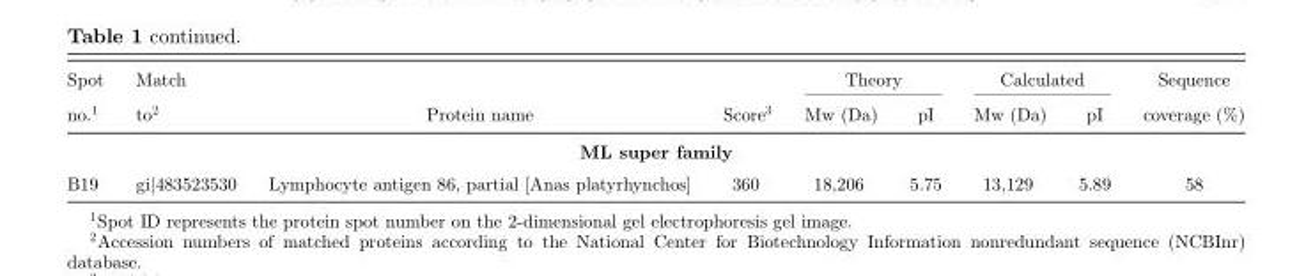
<table><thead><tr><td rowspan="2">Spot no.1</td><td rowspan="2">Match to2</td><td rowspan="2">Protein name</td><td rowspan="2">Score<sup>3</sup></td><td colspan="2">Theory</td><td colspan="2">Calculated</td><td rowspan="2">Sequence coverage (%)</td></tr><tr><td>Mw (Da)</td><td>pI</td><td>Mw (Da)</td><td>pI</td></tr></thead><tbody><tr><td colspan="9">ML super family</td></tr><tr><td>B19</td><td>gi|483523530</td><td>Lymphocyte antigen 86, partial [Anas platyrhynchos]</td><td>360</td><td>18,206</td><td>5.75</td><td>13,129</td><td>5.89</td><td>58</td></tr></tbody></table>